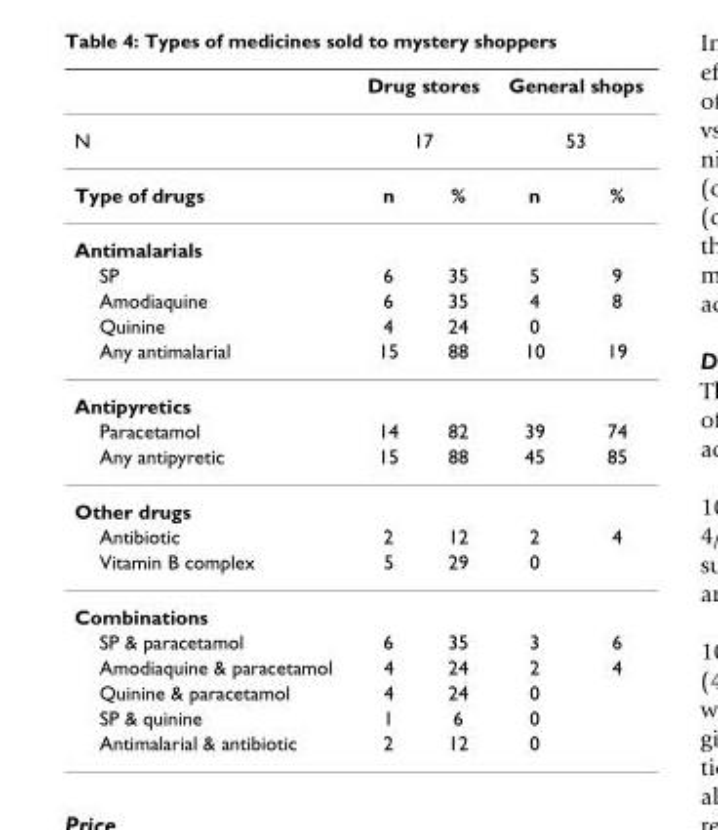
<table><thead><tr><td rowspan="3">N Type of drugs</td><td rowspan="2" colspan="2">Drug stores 17</td><td rowspan="2" colspan="2">General shops 53</td></tr><tr></tr><tr><td>n</td><td>%</td><td>n</td><td>%</td></tr></thead><tbody><tr><td colspan="5">Antimalarials</td></tr><tr><td>SP</td><td>6</td><td>35</td><td>5</td><td>9</td></tr><tr><td>Amodiaquine</td><td>6</td><td>35</td><td>4</td><td>8</td></tr><tr><td>Quinine</td><td>4</td><td>24</td><td>0</td><td></td></tr><tr><td>Any antimalarial</td><td>15</td><td>88</td><td>10</td><td>19</td></tr><tr><td colspan="5">Antipyretics</td></tr><tr><td>Paracetamol</td><td>14</td><td>82</td><td>39</td><td>74</td></tr><tr><td>Any antipyretic</td><td>15</td><td>88</td><td>45</td><td>85</td></tr><tr><td colspan="5">Other drugs</td></tr><tr><td>Antibiotic</td><td>2</td><td>12</td><td>2</td><td>4</td></tr><tr><td>Vitamin B complex</td><td>5</td><td>29</td><td>0</td><td></td></tr><tr><td colspan="5">Combinations</td></tr><tr><td>SP &amp; paracetamol</td><td>6</td><td>35</td><td>3</td><td>6</td></tr><tr><td>Amodiaquine &amp; paracetamol</td><td>4</td><td>24</td><td>2</td><td>4</td></tr><tr><td>Quinine &amp; paracetamol</td><td>4</td><td>24</td><td>0</td><td></td></tr><tr><td>SP &amp; quinine</td><td>1</td><td>6</td><td>0</td><td></td></tr><tr><td>Antimalarial &amp; antibiotic</td><td>2</td><td>12</td><td>0</td><td></td></tr></tbody></table>